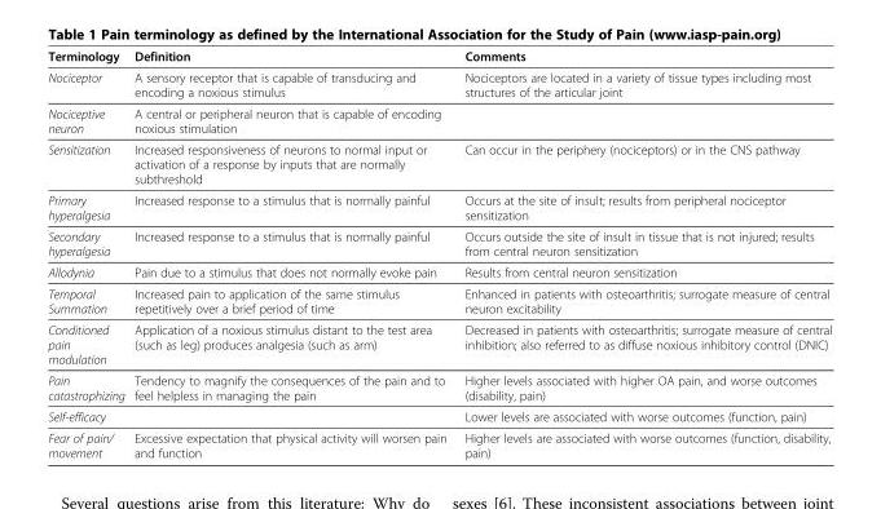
<table><thead><tr><td>Terminology</td><td>Definition</td><td>Comments</td></tr></thead><tbody><tr><td>Nociceptor</td><td>A sensory receptor that is capable of transducing and encoding a noxious stimulus</td><td>Nociceptors are located in a variety of tissue types including most structures of the articular joint</td></tr><tr><td>Nociceptive neuron</td><td>A central or peripheral neuron that is capable of encoding noxious stimulation</td><td></td></tr><tr><td>Sensitization</td><td>Increased responsiveness of neurons to normal input or activation of a response by inputs that are normally subthreshold</td><td>Can occur in the periphery (nociceptors) or in the CNS pathway</td></tr><tr><td>Primary hyperalgesia</td><td>Increased response to a stimulus that is normally painful</td><td>Occurs at the site of insult; results from peripheral nociceptor sensitization</td></tr><tr><td>Secondary hyperalgesia</td><td>Increased response to a stimulus that is normally painful</td><td>Occurs outside the site of insult in tissue that is not injured; results from central neuron sensitization</td></tr><tr><td>Allodynia</td><td>Pain due to a stimulus that does not normally evoke pain</td><td>Results from central neuron sensitization</td></tr><tr><td>Temporal Summation</td><td>Increased pain to application of the same stimulus repetitively over a brief period of time</td><td>Enhanced in patients with osteoarthritis; surrogate measure of central neuron excitability</td></tr><tr><td>Conditioned pain modulation</td><td>Application of a noxious stimulus distant to the test area (such as leg) produces analgesia (such as arm)</td><td>Decreased in patients with osteoarthritis; surrogate measure of central inhibition; also referred to as diffuse noxious inhibitory control (DNIC)</td></tr><tr><td>Pain catastrophizing</td><td>Tendency to magnify the consequences of the pain and to feel helpless in managing the pain</td><td>Higher levels associated with higher OA pain, and worse outcomes (disability, pain)</td></tr><tr><td>Self-efficacy</td><td></td><td>Lower levels are associated with worse outcomes (function, pain)</td></tr><tr><td>Fear of pain/ movement</td><td>Excessive expectation that physical activity will worsen pain and function</td><td>Higher levels are associated with worse outcomes (function, disability, pain)</td></tr></tbody></table>